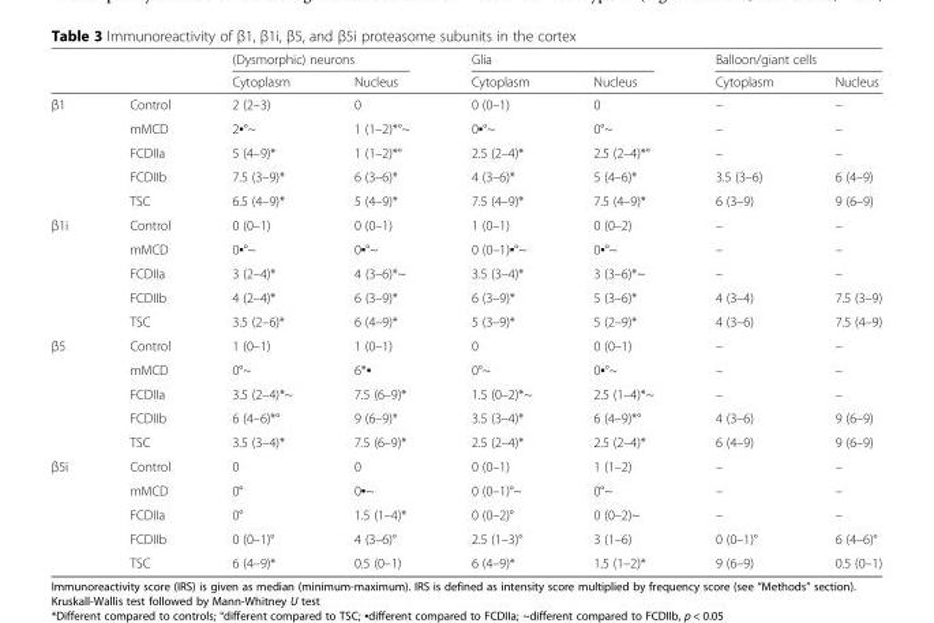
<table><thead><tr><td rowspan="2"></td><td rowspan="2"></td><td colspan="2">(Dysmorphic) neurons</td><td colspan="2">Glia</td><td colspan="2">Balloon/giant cells</td></tr><tr><td>Cytoplasm</td><td>Nucleus</td><td>Cytoplasm</td><td>Nucleus</td><td>Cytoplasm</td><td>Nucleus</td></tr></thead><tbody><tr><td rowspan="5">β1</td><td>Control</td><td>2 (2–3)</td><td>0</td><td>0 (0–1)</td><td>0</td><td>–</td><td>–</td></tr><tr><td>mMCD</td><td>2▪°~</td><td>1 (1–2)*°~</td><td>0▪°~</td><td>0°~</td><td>–</td><td>–</td></tr><tr><td>FCDIIa</td><td>5 (4–9)*</td><td>1 (1–2)*°</td><td>2.5 (2–4)*</td><td>2.5 (2–4)*°</td><td>–</td><td>–</td></tr><tr><td>FCDIIb</td><td>7.5 (3–9)*</td><td>6 (3–6)*</td><td>4 (3–6)*</td><td>5 (4–6)*</td><td>3.5 (3–6)</td><td>6 (4–9)</td></tr><tr><td>TSC</td><td>6.5 (4–9)*</td><td>5 (4–9)*</td><td>7.5 (4–9)*</td><td>7.5 (4–9)*</td><td>6 (3–9)</td><td>9 (6–9)</td></tr><tr><td rowspan="5">β1i</td><td>Control</td><td>0 (0–1)</td><td>0 (0–1)</td><td>1 (0–1)</td><td>0 (0–2)</td><td>–</td><td>–</td></tr><tr><td>mMCD</td><td>0▪°~</td><td>0▪°~</td><td>0 (0–1)▪°~</td><td>0▪°~</td><td>–</td><td>–</td></tr><tr><td>FCDIIa</td><td>3 (2–4)*</td><td>4 (3–6)*~</td><td>3.5 (3–4)*</td><td>3 (3–6)*~</td><td>–</td><td>–</td></tr><tr><td>FCDIIb</td><td>4 (2–4)*</td><td>6 (3–9)*</td><td>6 (3–9)*</td><td>5 (3–6)*</td><td>4 (3–4)</td><td>7.5 (3–9)</td></tr><tr><td>TSC</td><td>3.5 (2–6)*</td><td>6 (4–9)*</td><td>5 (3–9)*</td><td>5 (2–9)*</td><td>4 (3–6)</td><td>7.5 (4–9)</td></tr><tr><td rowspan="5">β5</td><td>Control</td><td>1 (0–1)</td><td>1 (0–1)</td><td>0</td><td>0 (0–1)</td><td>–</td><td>–</td></tr><tr><td>mMCD</td><td>0°~</td><td>6*▪</td><td>0°~</td><td>0▪°~</td><td>–</td><td>–</td></tr><tr><td>FCDIIa</td><td>3.5 (2–4)*~</td><td>7.5 (6–9)*</td><td>1.5 (0–2)*~</td><td>2.5 (1–4)*~</td><td>–</td><td>–</td></tr><tr><td>FCDIIb</td><td>6 (4–6)*°</td><td>9 (6–9)*</td><td>3.5 (3–4)*</td><td>6 (4–9)*°</td><td>4 (3–6)</td><td>9 (6–9)</td></tr><tr><td>TSC</td><td>3.5 (3–4)*</td><td>7.5 (6–9)*</td><td>2.5 (2–4)*</td><td>2.5 (2–4)*</td><td>6 (4–9)</td><td>9 (6–9)</td></tr><tr><td rowspan="5">β5i</td><td>Control</td><td>0</td><td>0</td><td>0 (0–1)</td><td>1 (1–2)</td><td>–</td><td>–</td></tr><tr><td>mMCD</td><td>0°</td><td>0▪~</td><td>0 (0–1)°~</td><td>0°~</td><td>–</td><td>–</td></tr><tr><td>FCDIIa</td><td>0°</td><td>1.5 (1–4)*</td><td>0 (0–2)°</td><td>0 (0–2)~</td><td>–</td><td>–</td></tr><tr><td>FCDIIb</td><td>0 (0–1)°</td><td>4 (3–6)°</td><td>2.5 (1–3)°</td><td>3 (1–6)</td><td>0 (0–1)°</td><td>6 (4–6)°</td></tr><tr><td>TSC</td><td>6 (4–9)*</td><td>0.5 (0–1)</td><td>6 (4–9)*</td><td>1.5 (1–2)*</td><td>9 (6–9)</td><td>0.5 (0–1)</td></tr></tbody></table>